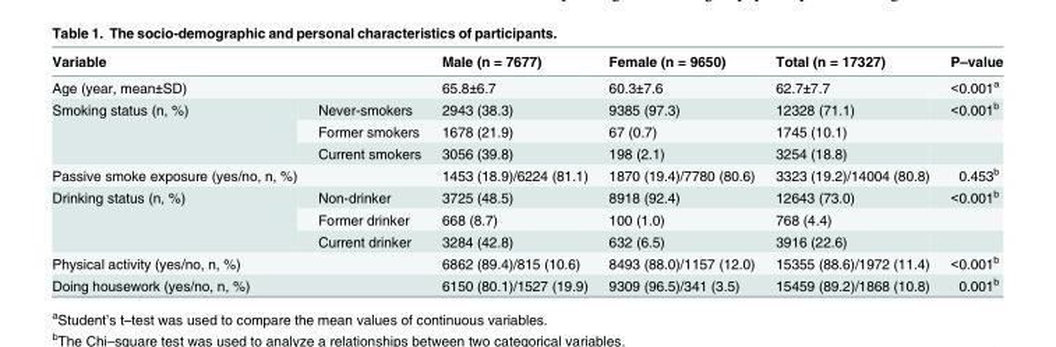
<table><thead><tr><td>Variable</td><td></td><td>Male (n = 7677)</td><td>Female (n = 9650)</td><td>Total (n = 17327)</td><td>P–value</td></tr></thead><tbody><tr><td>Age (year, mean±SD)</td><td></td><td>65.8±6.7</td><td>60.3±7.6</td><td>62.7±7.7</td><td>&lt;0.001<sup>a</sup></td></tr><tr><td rowspan="3">Smoking status (n, %)</td><td>Never-smokers</td><td>2943 (38.3)</td><td>9385 (97.3)</td><td>12328 (71.1)</td><td>&lt;0.001<sup>b</sup></td></tr><tr><td>Former smokers</td><td>1678 (21.9)</td><td>67 (0.7)</td><td>1745 (10.1)</td><td></td></tr><tr><td>Current smokers</td><td>3056 (39.8)</td><td>198 (2.1)</td><td>3254 (18.8)</td><td></td></tr><tr><td>Passive smoke exposure (yes/no, n, %)</td><td></td><td>1453 (18.9)/6224 (81.1)</td><td>1870 (19.4)/7780 (80.6)</td><td>3323 (19.2)/14004 (80.8)</td><td>0.453<sup>b</sup></td></tr><tr><td rowspan="3">Drinking status (n, %)</td><td>Non-drinker</td><td>3725 (48.5)</td><td>8918 (92.4)</td><td>12643 (73.0)</td><td>&lt;0.001<sup>b</sup></td></tr><tr><td>Former drinker</td><td>668 (8.7)</td><td>100 (1.0)</td><td>768 (4.4)</td><td></td></tr><tr><td>Current drinker</td><td>3284 (42.8)</td><td>632 (6.5)</td><td>3916 (22.6)</td><td></td></tr><tr><td>Physical activity (yes/no, n, %)</td><td></td><td>6862 (89.4)/815 (10.6)</td><td>8493 (88.0)/1157 (12.0)</td><td>15355 (88.6)/1972 (11.4)</td><td>&lt;0.001<sup>b</sup></td></tr><tr><td>Doing housework (yes/no, n, %)</td><td></td><td>6150 (80.1)/1527 (19.9)</td><td>9309 (96.5)/341 (3.5)</td><td>15459 (89.2)/1868 (10.8)</td><td>0.001<sup>b</sup></td></tr></tbody></table>